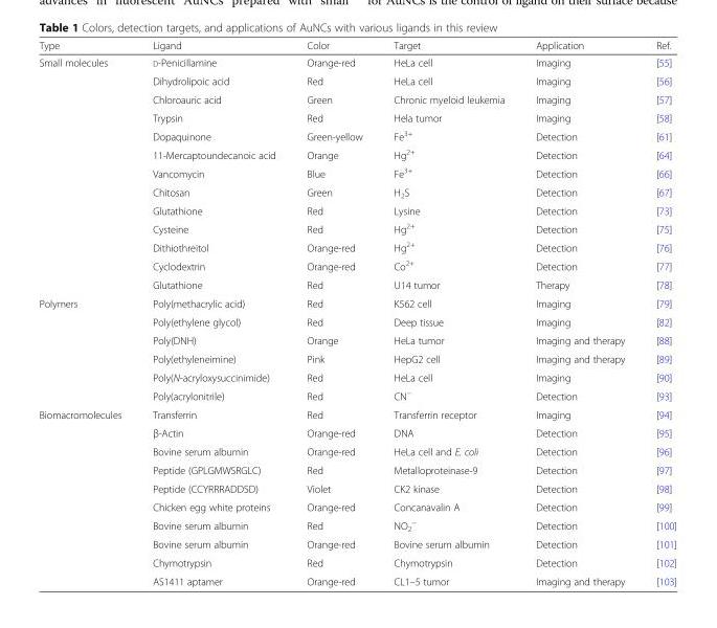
<table><thead><tr><td>Type</td><td>Ligand</td><td>Color</td><td>Target</td><td>Application</td><td>Ref.</td></tr></thead><tbody><tr><td rowspan="13">Small molecules</td><td>D-Penicillamine</td><td>Orange-red</td><td>HeLa cell</td><td>Imaging</td><td>[55]</td></tr><tr><td>Dihydrolipoic acid</td><td>Red</td><td>HeLa cell</td><td>Imaging</td><td>[56]</td></tr><tr><td>Chloroauric acid</td><td>Green</td><td>Chronic myeloid leukemia</td><td>Imaging</td><td>[57]</td></tr><tr><td>Trypsin</td><td>Red</td><td>Hela tumor</td><td>Imaging</td><td>[58]</td></tr><tr><td>Dopaquinone</td><td>Green-yellow</td><td>Fe<sup>3+</sup></td><td>Detection</td><td>[61]</td></tr><tr><td>11-Mercaptoundecanoic acid</td><td>Orange</td><td>Hg<sup>2+</sup></td><td>Detection</td><td>[64]</td></tr><tr><td>Vancomycin</td><td>Blue</td><td>Fe<sup>3+</sup></td><td>Detection</td><td>[66]</td></tr><tr><td>Chitosan</td><td>Green</td><td>H<sub>2</sub>S</td><td>Detection</td><td>[67]</td></tr><tr><td>Glutathione</td><td>Red</td><td>Lysine</td><td>Detection</td><td>[73]</td></tr><tr><td>Cysteine</td><td>Red</td><td>Hg<sup>2+</sup></td><td>Detection</td><td>[75]</td></tr><tr><td>Dithiothreitol</td><td>Orange-red</td><td>Hg<sup>2+</sup></td><td>Detection</td><td>[76]</td></tr><tr><td>Cyclodextrin</td><td>Orange-red</td><td>Co<sup>2+</sup></td><td>Detection</td><td>[77]</td></tr><tr><td>Glutathione</td><td>Red</td><td>U14 tumor</td><td>Therapy</td><td>[78]</td></tr><tr><td rowspan="6">Polymers</td><td>Poly(methacrylic acid)</td><td>Red</td><td>K562 cell</td><td>Imaging</td><td>[79]</td></tr><tr><td>Poly(ethylene glycol)</td><td>Red</td><td>Deep tissue</td><td>Imaging</td><td>[82]</td></tr><tr><td>Poly(DNH)</td><td>Orange</td><td>HeLa tumor</td><td>Imaging and therapy</td><td>[88]</td></tr><tr><td>Poly(ethyleneimine)</td><td>Pink</td><td>HepG2 cell</td><td>Imaging and therapy</td><td>[89]</td></tr><tr><td>Poly(N-acryloxysuccinimide)</td><td>Red</td><td>HeLa cell</td><td>Imaging</td><td>[90]</td></tr><tr><td>Poly(acrylonitrile)</td><td>Red</td><td>CN<sup>−</sup></td><td>Detection</td><td>[93]</td></tr><tr><td rowspan="10">Biomacromolecules</td><td>Transferrin</td><td>Red</td><td>Transferrin receptor</td><td>Imaging</td><td>[94]</td></tr><tr><td>β-Actin</td><td>Orange-red</td><td>DNA</td><td>Detection</td><td>[95]</td></tr><tr><td>Bovine serum albumin</td><td>Orange-red</td><td>HeLa cell and E. coli</td><td>Detection</td><td>[96]</td></tr><tr><td>Peptide (GPLGMWSRGLC)</td><td>Red</td><td>Metalloproteinase-9</td><td>Detection</td><td>[97]</td></tr><tr><td>Peptide (CCYRRRADDSD)</td><td>Violet</td><td>CK2 kinase</td><td>Detection</td><td>[98]</td></tr><tr><td>Chicken egg white proteins</td><td>Orange-red</td><td>Concanavalin A</td><td>Detection</td><td>[99]</td></tr><tr><td>Bovine serum albumin</td><td>Red</td><td>NO<sub>2</sub> <sup>−</sup></td><td>Detection</td><td>[100]</td></tr><tr><td>Bovine serum albumin</td><td>Orange-red</td><td>Bovine serum albumin</td><td>Detection</td><td>[101]</td></tr><tr><td>Chymotrypsin</td><td>Red</td><td>Chymotrypsin</td><td>Detection</td><td>[102]</td></tr><tr><td>AS1411 aptamer</td><td>Orange-red</td><td>CL1–5 tumor</td><td>Imaging and therapy</td><td>[103]</td></tr></tbody></table>